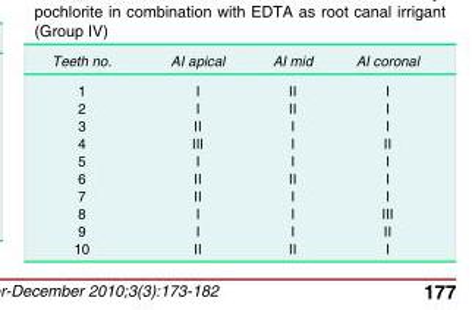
<table><tbody><tr><td>Teeth no.</td><td>AI apical</td><td>AI mid</td><td>AI coronal</td></tr><tr><td>1</td><td>I</td><td>II</td><td>I</td></tr><tr><td>2</td><td>I</td><td>II</td><td>I</td></tr><tr><td>3</td><td>II</td><td>I</td><td>I</td></tr><tr><td>4</td><td>III</td><td>I</td><td>II</td></tr><tr><td>5</td><td>I</td><td>I</td><td>I</td></tr><tr><td>6</td><td>II</td><td>II</td><td>I</td></tr><tr><td>7</td><td>II</td><td>I</td><td>I</td></tr><tr><td>8</td><td>I</td><td>I</td><td>III</td></tr><tr><td>9</td><td>I</td><td>I</td><td>II</td></tr><tr><td>10</td><td>II</td><td>II</td><td>I</td></tr></tbody></table>